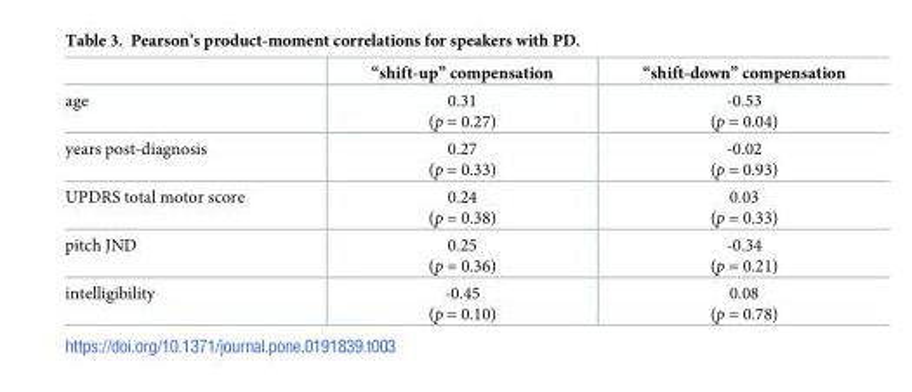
<table><thead><tr><td></td><td>“shift-up” compensation</td><td>“shift-down” compensation</td></tr></thead><tbody><tr><td>age</td><td>0.31 (p = 0.27)</td><td>-0.53 (p = 0.04)</td></tr><tr><td>years post-diagnosis</td><td>0.27 (p = 0.33)</td><td>-0.02 (p = 0.93)</td></tr><tr><td>UPDRS total motor score</td><td>0.24 (p = 0.38)</td><td>0.03 (p = 0.33)</td></tr><tr><td>pitch JND</td><td>0.25 (p = 0.36)</td><td>-0.34 (p = 0.21)</td></tr><tr><td>intelligibility</td><td>-0.45 (p = 0.10)</td><td>0.08 (p = 0.78)</td></tr></tbody></table>